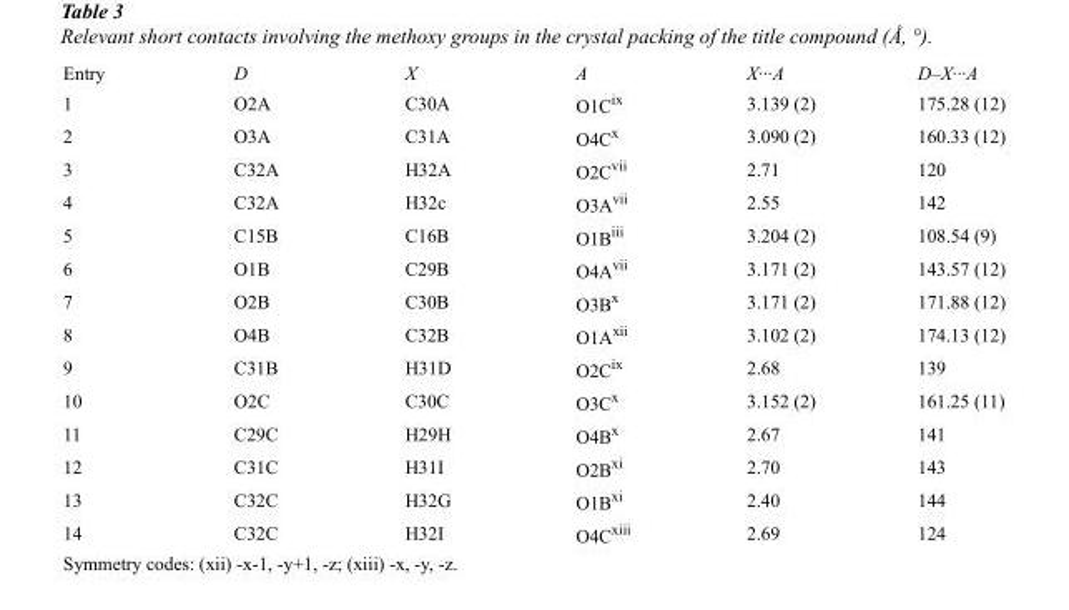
<table><thead><tr><td>Entry</td><td>D</td><td>X</td><td>A</td><td>X···A</td><td>D–X···A</td></tr></thead><tbody><tr><td>1</td><td>O2A</td><td>C30A</td><td>O1C<sup>ix</sup></td><td>3.139 (2)</td><td>175.28 (12)</td></tr><tr><td>2</td><td>O3A</td><td>C31A</td><td>O4C<sup>x</sup></td><td>3.090 (2)</td><td>160.33 (12)</td></tr><tr><td>3</td><td>C32A</td><td>H32A</td><td>O2C<sup>vii</sup></td><td>2.71</td><td>120</td></tr><tr><td>4</td><td>C32A</td><td>H32c</td><td>O3A<sup>vii</sup></td><td>2.55</td><td>142</td></tr><tr><td>5</td><td>C15B</td><td>C16B</td><td>O1B<sup>iii</sup></td><td>3.204 (2)</td><td>108.54 (9)</td></tr><tr><td>6</td><td>O1B</td><td>C29B</td><td>O4A<sup>vii</sup></td><td>3.171 (2)</td><td>143.57 (12)</td></tr><tr><td>7</td><td>O2B</td><td>C30B</td><td>O3B<sup>x</sup></td><td>3.171 (2)</td><td>171.88 (12)</td></tr><tr><td>8</td><td>O4B</td><td>C32B</td><td>O1A<sup>xii</sup></td><td>3.102 (2)</td><td>174.13 (12)</td></tr><tr><td>9</td><td>C31B</td><td>H31D</td><td>O2C<sup>ix</sup></td><td>2.68</td><td>139</td></tr><tr><td>10</td><td>O2C</td><td>C30C</td><td>O3C<sup>x</sup></td><td>3.152 (2)</td><td>161.25 (11)</td></tr><tr><td>11</td><td>C29C</td><td>H29H</td><td>O4B<sup>x</sup></td><td>2.67</td><td>141</td></tr><tr><td>12</td><td>C31C</td><td>H31I</td><td>O2B<sup>xi</sup></td><td>2.70</td><td>143</td></tr><tr><td>13</td><td>C32C</td><td>H32G</td><td>O1B<sup>xi</sup></td><td>2.40</td><td>144</td></tr><tr><td>14</td><td>C32C</td><td>H32I</td><td>O4C<sup>xiii</sup></td><td>2.69</td><td>124</td></tr></tbody></table>